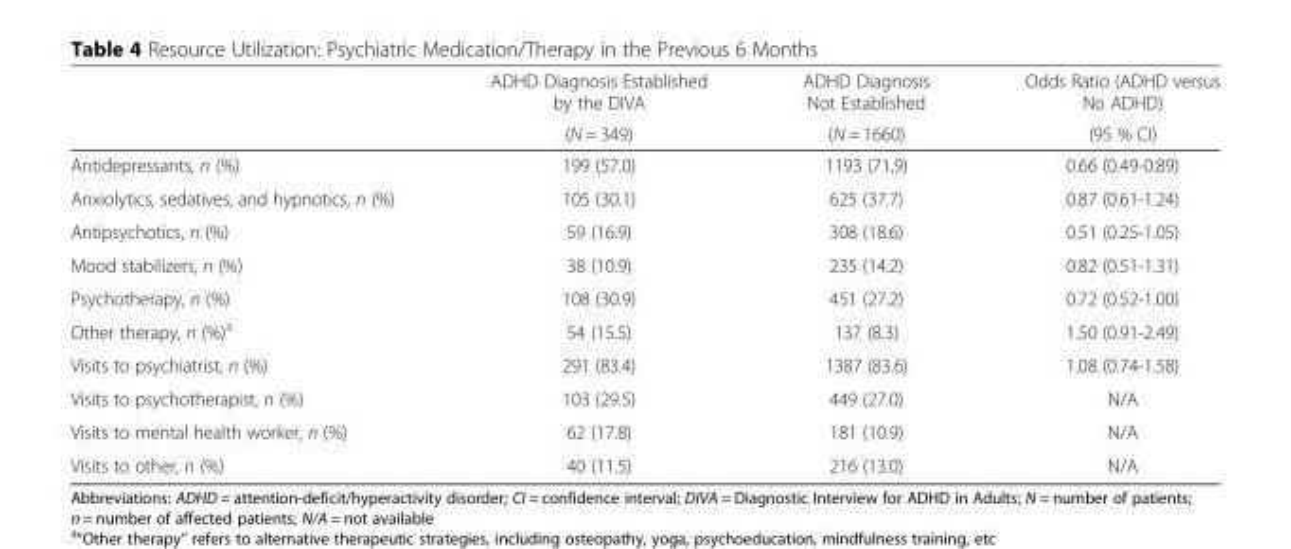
<table><thead><tr><td rowspan="2"></td><td rowspan="2">ADHD Diagnosis Established by the DIVA (N = 349)</td><td rowspan="2">ADHD Diagnosis Not Established (N = 1660)</td><td rowspan="2">Odds Ratio (ADHD versus No ADHD) (95 % CI)</td></tr><tr></tr></thead><tbody><tr><td>Antidepressants, n (%)</td><td>199 (57.0)</td><td>1193 (71.9)</td><td>0.66 (0.49-0.89)</td></tr><tr><td>Anxiolytics, sedatives, and hypnotics, n (%)</td><td>105 (30.1)</td><td>625 (37.7)</td><td>0.87 (0.61-1.24)</td></tr><tr><td>Antipsychotics, n (%)</td><td>59 (16.9)</td><td>308 (18.6)</td><td>0.51 (0.25-1.05)</td></tr><tr><td>Mood stabilizers, n (%)</td><td>38 (10.9)</td><td>235 (14.2)</td><td>0.82 (0.51-1.31)</td></tr><tr><td>Psychotherapy, n (%)</td><td>108 (30.9)</td><td>451 (27.2)</td><td>0.72 (0.52-1.00)</td></tr><tr><td>Other therapy, n (%)<sup>a</sup></td><td>54 (15.5)</td><td>137 (8.3)</td><td>1.50 (0.91-2.49)</td></tr><tr><td>Visits to psychiatrist, n (%)</td><td>291 (83.4)</td><td>1387 (83.6)</td><td>1.08 (0.74-1.58)</td></tr><tr><td>Visits to psychotherapist, n (%)</td><td>103 (29.5)</td><td>449 (27.0)</td><td>N/A</td></tr><tr><td>Visits to mental health worker, n (%)</td><td>62 (17.8)</td><td>181 (10.9)</td><td>N/A</td></tr><tr><td>Visits to other, n (%)</td><td>40 (11.5)</td><td>216 (13.0)</td><td>N/A</td></tr></tbody></table>